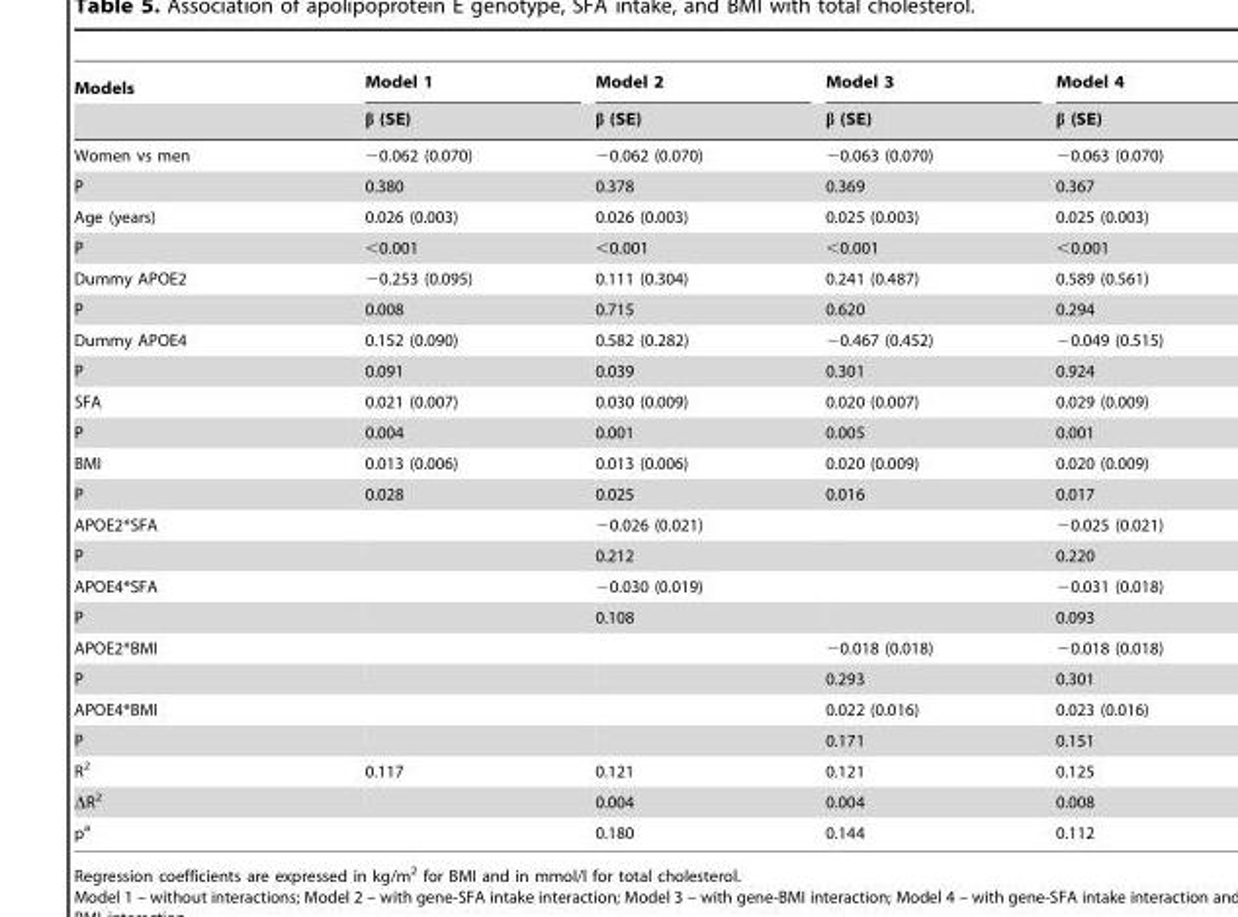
<table><thead><tr><td rowspan="2">Models</td><td rowspan="2">Model 1 β (SE)</td><td rowspan="2">Model 2 β (SE)</td><td rowspan="2">Model 3 β (SE)</td><td rowspan="2">Model 4 β (SE)</td></tr><tr></tr></thead><tbody><tr><td>Women vs men</td><td>−0.062 (0.070)</td><td>−0.062 (0.070)</td><td>−0.063 (0.070)</td><td>−0.063 (0.070)</td></tr><tr><td>P</td><td>0.380</td><td>0.378</td><td>0.369</td><td>0.367</td></tr><tr><td>Age (years)</td><td>0.026 (0.003)</td><td>0.026 (0.003)</td><td>0.025 (0.003)</td><td>0.025 (0.003)</td></tr><tr><td>P</td><td>&lt;0.001</td><td>&lt;0.001</td><td>&lt;0.001</td><td>&lt;0.001</td></tr><tr><td>Dummy APOE2</td><td>−0.253 (0.095)</td><td>0.111 (0.304)</td><td>0.241 (0.487)</td><td>0.589 (0.561)</td></tr><tr><td>P</td><td>0.008</td><td>0.715</td><td>0.620</td><td>0.294</td></tr><tr><td>Dummy APOE4</td><td>0.152 (0.090)</td><td>0.582 (0.282)</td><td>−0.467 (0.452)</td><td>−0.049 (0.515)</td></tr><tr><td>P</td><td>0.091</td><td>0.039</td><td>0.301</td><td>0.924</td></tr><tr><td>SFA</td><td>0.021 (0.007)</td><td>0.030 (0.009)</td><td>0.020 (0.007)</td><td>0.029 (0.009)</td></tr><tr><td>P</td><td>0.004</td><td>0.001</td><td>0.005</td><td>0.001</td></tr><tr><td>BMI</td><td>0.013 (0.006)</td><td>0.013 (0.006)</td><td>0.020 (0.009)</td><td>0.020 (0.009)</td></tr><tr><td>P</td><td>0.028</td><td>0.025</td><td>0.016</td><td>0.017</td></tr><tr><td>APOE2*SFA</td><td></td><td>−0.026 (0.021)</td><td></td><td>−0.025 (0.021)</td></tr><tr><td>P</td><td></td><td>0.212</td><td></td><td>0.220</td></tr><tr><td>APOE4*SFA</td><td></td><td>−0.030 (0.019)</td><td></td><td>−0.031 (0.018)</td></tr><tr><td>P</td><td></td><td>0.108</td><td></td><td>0.093</td></tr><tr><td>APOE2*BMI</td><td></td><td></td><td>−0.018 (0.018)</td><td>−0.018 (0.018)</td></tr><tr><td>P</td><td></td><td></td><td>0.293</td><td>0.301</td></tr><tr><td>APOE4*BMI</td><td></td><td></td><td>0.022 (0.016)</td><td>0.023 (0.016)</td></tr><tr><td>P</td><td></td><td></td><td>0.171</td><td>0.151</td></tr><tr><td>R<sup>2</sup></td><td>0.117</td><td>0.121</td><td>0.121</td><td>0.125</td></tr><tr><td>ΔR<sup>2</sup></td><td></td><td>0.004</td><td>0.004</td><td>0.008</td></tr><tr><td>p<sup>a</sup></td><td></td><td>0.180</td><td>0.144</td><td>0.112</td></tr></tbody></table>